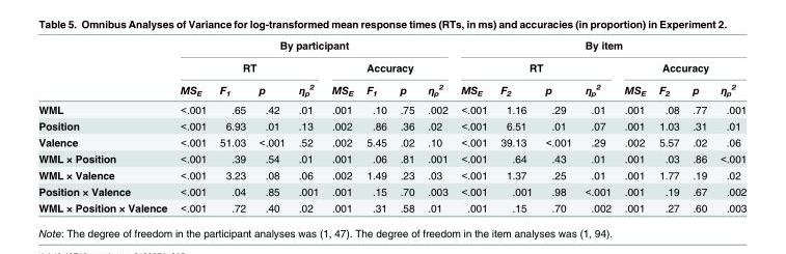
<table><thead><tr><td rowspan="3"></td><td colspan="8">By participant</td><td colspan="8">By item</td></tr><tr><td colspan="4">RT</td><td colspan="4">Accuracy</td><td colspan="4">RT</td><td colspan="4">Accuracy</td></tr><tr><td>MS<sub>E</sub></td><td>F<sub>1</sub></td><td>p</td><td>η<sub>p</sub> <sup>2</sup></td><td>MS<sub>E</sub></td><td>F<sub>1</sub></td><td>p</td><td>η<sub>p</sub> <sup>2</sup></td><td>MS<sub>E</sub></td><td>F<sub>2</sub></td><td>p</td><td>η<sub>p</sub> <sup>2</sup></td><td>MS<sub>E</sub></td><td>F<sub>2</sub></td><td>p</td><td>η<sub>p</sub> <sup>2</sup></td></tr></thead><tbody><tr><td>WML</td><td>&lt;.001</td><td>.65</td><td>.42</td><td>.01</td><td>.001</td><td>.10</td><td>.75</td><td>.002</td><td>&lt;.001</td><td>1.16</td><td>.29</td><td>.01</td><td>.001</td><td>.08</td><td>.77</td><td>.001</td></tr><tr><td>Position</td><td>&lt;.001</td><td>6.93</td><td>.01</td><td>.13</td><td>.002</td><td>.86</td><td>.36</td><td>.02</td><td>&lt;.001</td><td>6.51</td><td>.01</td><td>.07</td><td>.001</td><td>1.03</td><td>.31</td><td>.01</td></tr><tr><td>Valence</td><td>&lt;.001</td><td>51.03</td><td>&lt;.001</td><td>.52</td><td>.002</td><td>5.45</td><td>.02</td><td>.10</td><td>&lt;.001</td><td>39.13</td><td>&lt;.001</td><td>.29</td><td>.002</td><td>5.57</td><td>.02</td><td>.06</td></tr><tr><td>WML × Position</td><td>&lt;.001</td><td>.39</td><td>.54</td><td>.01</td><td>.001</td><td>.06</td><td>.81</td><td>.001</td><td>&lt;.001</td><td>.64</td><td>.43</td><td>.01</td><td>.001</td><td>.03</td><td>.86</td><td>&lt;.001</td></tr><tr><td>WML × Valence</td><td>&lt;.001</td><td>3.23</td><td>.08</td><td>.06</td><td>.002</td><td>1.49</td><td>.23</td><td>.03</td><td>&lt;.001</td><td>1.37</td><td>.25</td><td>.01</td><td>.001</td><td>1.77</td><td>.19</td><td>.02</td></tr><tr><td>Position × Valence</td><td>&lt;.001</td><td>.04</td><td>.85</td><td>.001</td><td>.001</td><td>.15</td><td>.70</td><td>.003</td><td>&lt;.001</td><td>.001</td><td>.98</td><td>&lt;.001</td><td>.001</td><td>.19</td><td>.67</td><td>.002</td></tr><tr><td>WML × Position × Valence</td><td>&lt;.001</td><td>.72</td><td>.40</td><td>.02</td><td>.001</td><td>.31</td><td>.58</td><td>.01</td><td>.001</td><td>.15</td><td>.70</td><td>.002</td><td>.001</td><td>.27</td><td>.60</td><td>.003</td></tr></tbody></table>